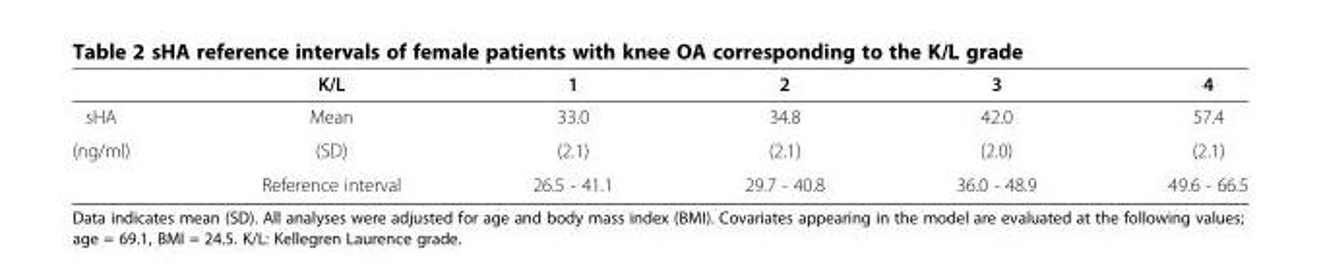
<table><thead><tr><td></td><td>K/L</td><td>1</td><td>2</td><td>3</td><td>4</td></tr></thead><tbody><tr><td>sHA</td><td>Mean</td><td>33.0</td><td>34.8</td><td>42.0</td><td>57.4</td></tr><tr><td rowspan="2">(ng/ml)</td><td>(SD)</td><td>(2.1)</td><td>(2.1)</td><td>(2.0)</td><td>(2.1)</td></tr><tr><td>Reference interval</td><td>26.5 - 41.1</td><td>29.7 - 40.8</td><td>36.0 - 48.9</td><td>49.6 - 66.5</td></tr></tbody></table>